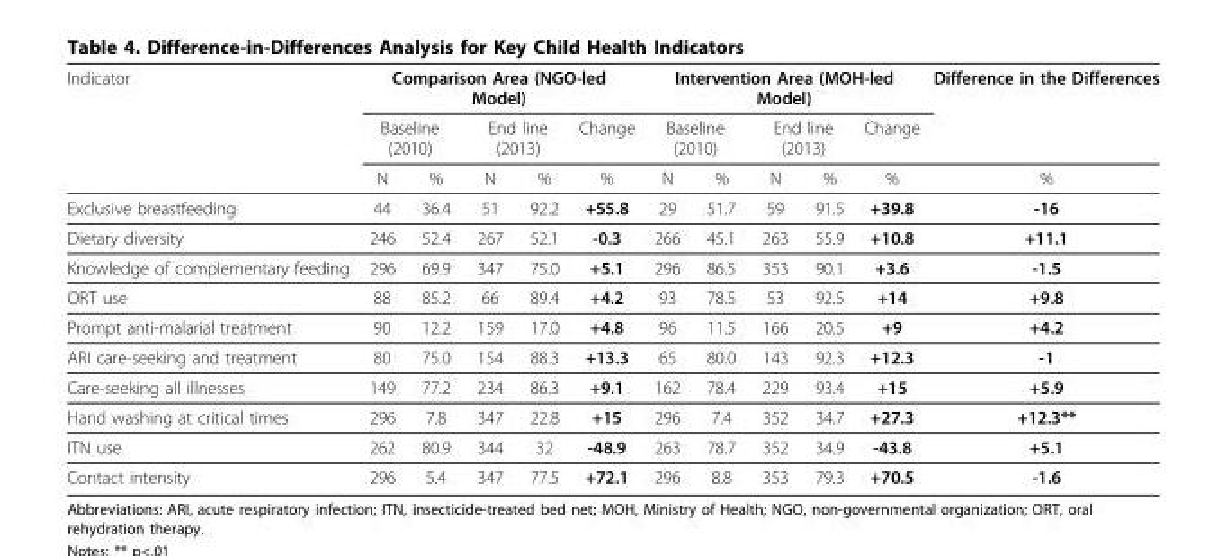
<table><thead><tr><td rowspan="3">Indicator</td><td colspan="5">Comparison Area (NGO-led Model)</td><td colspan="5">Intervention Area (MOH-led Model)</td><td rowspan="3">Difference in the Differences %</td></tr><tr><td colspan="2">Baseline (2010)</td><td colspan="2">End line (2013)</td><td rowspan="2">Change %</td><td colspan="2">Baseline (2010)</td><td colspan="2">End line (2013)</td><td rowspan="2">Change %</td></tr><tr><td>N</td><td>%</td><td>N</td><td>%</td><td>N</td><td>%</td><td>N</td><td>%</td></tr></thead><tbody><tr><td>Exclusive breastfeeding</td><td>44</td><td>36.4</td><td>51</td><td>92.2</td><td>+55.8</td><td>29</td><td>51.7</td><td>59</td><td>91.5</td><td>+39.8</td><td>-16</td></tr><tr><td>Dietary diversity</td><td>246</td><td>52.4</td><td>267</td><td>52.1</td><td>-0.3</td><td>266</td><td>45.1</td><td>263</td><td>55.9</td><td>+10.8</td><td>+11.1</td></tr><tr><td>Knowledge of complementary feeding</td><td>296</td><td>69.9</td><td>347</td><td>75.0</td><td>+5.1</td><td>296</td><td>86.5</td><td>353</td><td>90.1</td><td>+3.6</td><td>-1.5</td></tr><tr><td>ORT use</td><td>88</td><td>85.2</td><td>66</td><td>89.4</td><td>+4.2</td><td>93</td><td>78.5</td><td>53</td><td>92.5</td><td>+14</td><td>+9.8</td></tr><tr><td>Prompt anti-malarial treatment</td><td>90</td><td>12.2</td><td>159</td><td>17.0</td><td>+4.8</td><td>96</td><td>11.5</td><td>166</td><td>20.5</td><td>+9</td><td>+4.2</td></tr><tr><td>ARI care-seeking and treatment</td><td>80</td><td>75.0</td><td>154</td><td>88.3</td><td>+13.3</td><td>65</td><td>80.0</td><td>143</td><td>92.3</td><td>+12.3</td><td>-1</td></tr><tr><td>Care-seeking all illnesses</td><td>149</td><td>77.2</td><td>234</td><td>86.3</td><td>+9.1</td><td>162</td><td>78.4</td><td>229</td><td>93.4</td><td>+15</td><td>+5.9</td></tr><tr><td>Hand washing at critical times</td><td>296</td><td>7.8</td><td>347</td><td>22.8</td><td>+15</td><td>296</td><td>7.4</td><td>352</td><td>34.7</td><td>+27.3</td><td>+12.3**</td></tr><tr><td>ITN use</td><td>262</td><td>80.9</td><td>344</td><td>32</td><td>-48.9</td><td>263</td><td>78.7</td><td>352</td><td>34.9</td><td>-43.8</td><td>+5.1</td></tr><tr><td>Contact intensity</td><td>296</td><td>5.4</td><td>347</td><td>77.5</td><td>+72.1</td><td>296</td><td>8.8</td><td>353</td><td>79.3</td><td>+70.5</td><td>-1.6</td></tr></tbody></table>